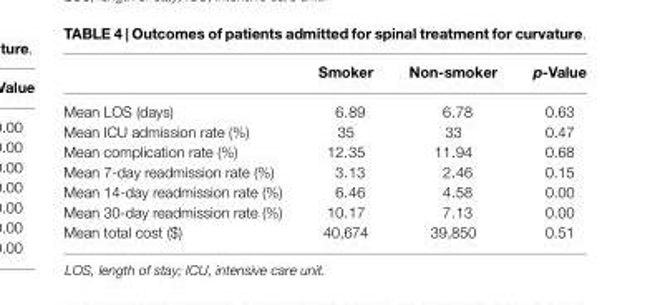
<table><thead><tr><td></td><td>Smoker</td><td>Non-smoker</td><td>p-Value</td></tr></thead><tbody><tr><td>Mean LOS (days)</td><td>6.89</td><td>6.78</td><td>0.63</td></tr><tr><td>Mean ICU admission rate (%)</td><td>35</td><td>33</td><td>0.47</td></tr><tr><td>Mean complication rate (%)</td><td>12.35</td><td>11.94</td><td>0.68</td></tr><tr><td>Mean 7-day readmission rate (%)</td><td>3.13</td><td>2.46</td><td>0.15</td></tr><tr><td>Mean 14-day readmission rate (%)</td><td>6.46</td><td>4.58</td><td>0.00</td></tr><tr><td>Mean 30-day readmission rate (%)</td><td>10.17</td><td>7.13</td><td>0.00</td></tr><tr><td>Mean total cost ($)</td><td>40,674</td><td>39,850</td><td>0.51</td></tr></tbody></table>